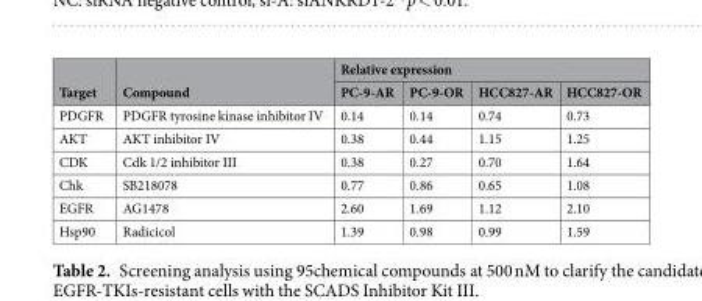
<table><thead><tr><td rowspan="2">Target</td><td rowspan="2">Compound</td><td colspan="4">Relative expression</td></tr><tr><td>PC-9-AR</td><td>PC-9-OR</td><td>HCC827-AR</td><td>HCC827-OR</td></tr></thead><tbody><tr><td>PDGFR</td><td>PDGFR tyrosine kinase inhibitor IV</td><td>0.14</td><td>0.14</td><td>0.74</td><td>0.73</td></tr><tr><td>AKT</td><td>AKT inhibitor IV</td><td>0.38</td><td>0.44</td><td>1.15</td><td>1.25</td></tr><tr><td>CDK</td><td>Cdk 1/2 inhibitor III</td><td>0.38</td><td>0.27</td><td>0.70</td><td>1.64</td></tr><tr><td>Chk</td><td>SB218078</td><td>0.77</td><td>0.86</td><td>0.65</td><td>1.08</td></tr><tr><td>EGFR</td><td>AG1478</td><td>2.60</td><td>1.69</td><td>1.12</td><td>2.10</td></tr><tr><td>Hsp90</td><td>Radicicol</td><td>1.39</td><td>0.98</td><td>0.99</td><td>1.59</td></tr></tbody></table>